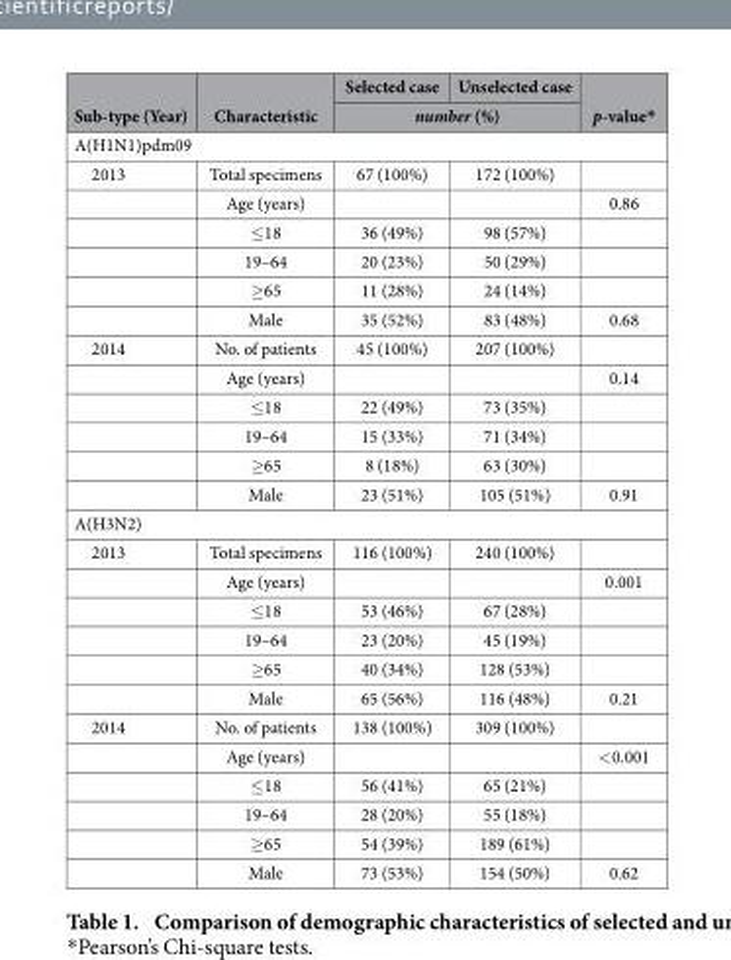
<table><thead><tr><td rowspan="2">Sub-type (Year)</td><td rowspan="2">Characteristic</td><td>Selected case</td><td>Unselected case</td><td rowspan="2">p-value*</td></tr><tr><td colspan="2">number (%)</td></tr></thead><tbody><tr><td colspan="5">A(H1N1)pdm09</td></tr><tr><td rowspan="6">2013</td><td>Total specimens</td><td>67 (100%)</td><td>172 (100%)</td><td></td></tr><tr><td>Age (years)</td><td></td><td></td><td>0.86</td></tr><tr><td>≤ 18</td><td>36 (49%)</td><td>98 (57%)</td><td></td></tr><tr><td>19–64</td><td>20 (23%)</td><td>50 (29%)</td><td></td></tr><tr><td>≥ 65</td><td>11 (28%)</td><td>24 (14%)</td><td></td></tr><tr><td>Male</td><td>35 (52%)</td><td>83 (48%)</td><td>0.68</td></tr><tr><td rowspan="6">2014</td><td>No. of patients</td><td>45 (100%)</td><td>207 (100%)</td><td></td></tr><tr><td>Age (years)</td><td></td><td></td><td>0.14</td></tr><tr><td>≤ 18</td><td>22 (49%)</td><td>73 (35%)</td><td></td></tr><tr><td>19–64</td><td>15 (33%)</td><td>71 (34%)</td><td></td></tr><tr><td>≥ 65</td><td>8 (18%)</td><td>63 (30%)</td><td></td></tr><tr><td>Male</td><td>23 (51%)</td><td>105 (51%)</td><td>0.91</td></tr><tr><td colspan="5">A(H3N2)</td></tr><tr><td rowspan="6">2013</td><td>Total specimens</td><td>116 (100%)</td><td>240 (100%)</td><td></td></tr><tr><td>Age (years)</td><td></td><td></td><td>0.001</td></tr><tr><td>≤ 18</td><td>53 (46%)</td><td>67 (28%)</td><td></td></tr><tr><td>19–64</td><td>23 (20%)</td><td>45 (19%)</td><td></td></tr><tr><td>≥ 65</td><td>40 (34%)</td><td>128 (53%)</td><td></td></tr><tr><td>Male</td><td>65 (56%)</td><td>116 (48%)</td><td>0.21</td></tr><tr><td rowspan="6">2014</td><td>No. of patients</td><td>138 (100%)</td><td>309 (100%)</td><td></td></tr><tr><td>Age (years)</td><td></td><td></td><td>&lt; 0.001</td></tr><tr><td>≤ 18</td><td>56 (41%)</td><td>65 (21%)</td><td></td></tr><tr><td>19–64</td><td>28 (20%)</td><td>55 (18%)</td><td></td></tr><tr><td>≥ 65</td><td>54 (39%)</td><td>189 (61%)</td><td></td></tr><tr><td>Male</td><td>73 (53%)</td><td>154 (50%)</td><td>0.62</td></tr></tbody></table>